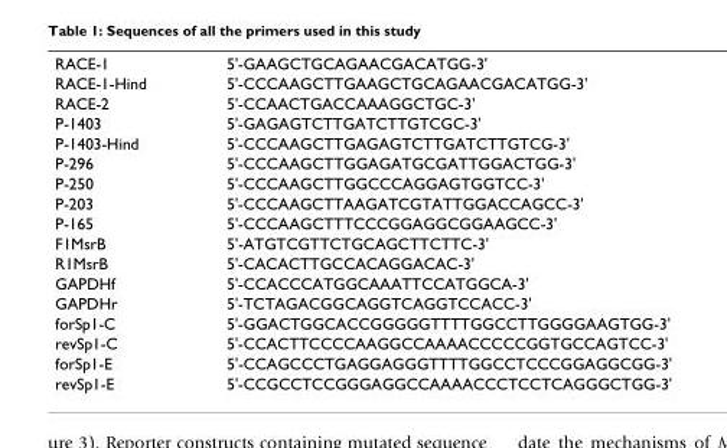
<table><tbody><tr><td>RACE-1</td><td>5&#x27;-GAAGCTGCAGAACGACATGG-3&#x27;</td></tr><tr><td>RACE-1-Hind</td><td>5&#x27;-CCCAAGCTTGAAGCTGCAGAACGACATGG-3&#x27;</td></tr><tr><td>RACE-2</td><td>5&#x27;-CCAACTGACCAAAGGCTGC-3&#x27;</td></tr><tr><td>P-1403</td><td>5&#x27;-GAGAGTCTTGATCTTGTCGC-3&#x27;</td></tr><tr><td>P-1403-Hind</td><td>5&#x27;-CCCAAGCTTGAGAGTCTTGATCTTGTCG-3&#x27;</td></tr><tr><td>P-296</td><td>5&#x27;-CCCAAGCTTGGAGATGCGATTGGACTGG-3&#x27;</td></tr><tr><td>P-250</td><td>5&#x27;-CCCAAGCTTGGCCCAGGAGTGGTCC-3&#x27;</td></tr><tr><td>P-203</td><td>5&#x27;-CCCAAGCTTAAGATCGTATTGGACCAGCC-3&#x27;</td></tr><tr><td>P-165</td><td>5&#x27;-CCCAAGCTTTCCCGGAGGCGGAAGCC-3&#x27;</td></tr><tr><td>F1MsrB</td><td>5&#x27;-ATGTCGTTCTGCAGCTTCTTC-3&#x27;</td></tr><tr><td>R1MsrB</td><td>5&#x27;-CACACTTGCCACAGGACAC-3&#x27;</td></tr><tr><td>GAPDHf</td><td>5&#x27;-CCACCCATGGCAAATTCCATGGCA-3&#x27;</td></tr><tr><td>GAPDHr</td><td>5&#x27;-TCTAGACGGCAGGTCAGGTCCACC-3&#x27;</td></tr><tr><td>forSp1-C</td><td>5&#x27;-GGACTGGCACCGGGGGTTTTGGCCTTGGGGAAGTGG-3&#x27;</td></tr><tr><td>revSp1-C</td><td>5&#x27;-CCACTTCCCCAAGGCCAAAACCCCCGGTGCCAGTCC-3&#x27;</td></tr><tr><td>forSp1-E</td><td>5&#x27;-CCAGCCCTGAGGAGGGTTTTGGCCTCCCGGAGGCGG-3&#x27;</td></tr><tr><td>revSp1-E</td><td>5&#x27;-CCGCCTCCGGGAGGCCAAAACCCTCCTCAGGGCTGG-3&#x27;</td></tr></tbody></table>